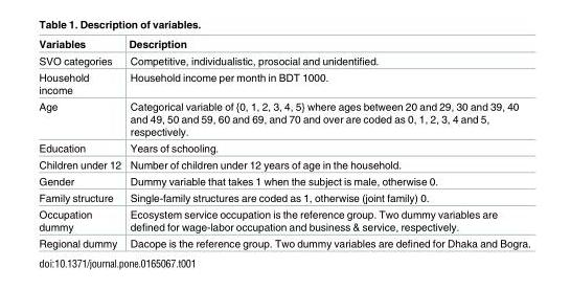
<table><thead><tr><td>Variables</td><td>Description</td></tr></thead><tbody><tr><td>SVO categories</td><td>Competitive, individualistic, prosocial and unidentified.</td></tr><tr><td>Household income</td><td>Household income per month in BDT 1000.</td></tr><tr><td>Age</td><td>Categorical variable of {0, 1, 2, 3, 4, 5} where ages between 20 and 29, 30 and 39, 40 and 49, 50 and 59, 60 and 69, and 70 and over are coded as 0, 1, 2, 3, 4 and 5, respectively.</td></tr><tr><td>Education</td><td>Years of schooling.</td></tr><tr><td>Children under 12</td><td>Number of children under 12 years of age in the household.</td></tr><tr><td>Gender</td><td>Dummy variable that takes 1 when the subject is male, otherwise 0.</td></tr><tr><td>Family structure</td><td>Single-family structures are coded as 1, otherwise (joint family) 0.</td></tr><tr><td>Occupation dummy</td><td>Ecosystem service occupation is the reference group. Two dummy variables are defined for wage-labor occupation and business &amp; service, respectively.</td></tr><tr><td>Regional dummy</td><td>Dacope is the reference group. Two dummy variables are defined for Dhaka and Bogra.</td></tr></tbody></table>